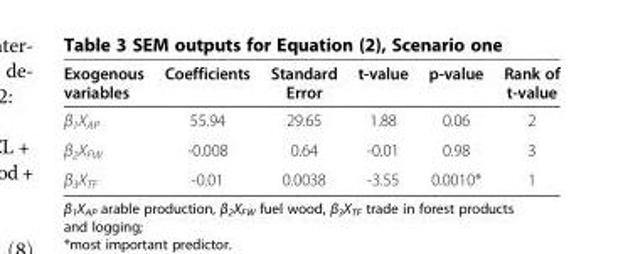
<table><thead><tr><td>Exogenous variables</td><td>Coefficients</td><td>Standard Error</td><td>t-value</td><td>p-value</td><td>Rank of t-value</td></tr></thead><tbody><tr><td>β<sub>1</sub>X<sub>AP</sub></td><td>55.94</td><td>29.65</td><td>1.88</td><td>0.06</td><td>2</td></tr><tr><td>β<sub>2</sub>X<sub>FW</sub></td><td>-0.008</td><td>0.64</td><td>-0.01</td><td>0.98</td><td>3</td></tr><tr><td>β<sub>3</sub>X<sub>TF</sub></td><td>-0.01</td><td>0.0038</td><td>-3.55</td><td>0.0010*</td><td>1</td></tr></tbody></table>